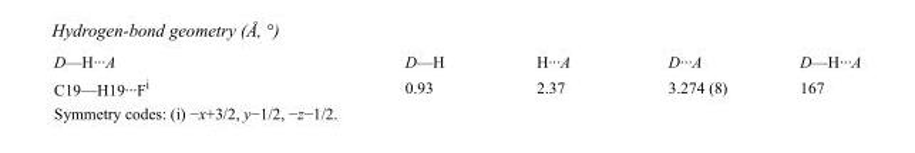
<table><tbody><tr><td>D—H···A</td><td>D—H</td><td>H···A</td><td>D···A</td><td>D—H···A</td></tr><tr><td>C19—H19···F<sup>i</sup></td><td>0.93</td><td>2.37</td><td>3.274 (8)</td><td>167</td></tr></tbody></table>